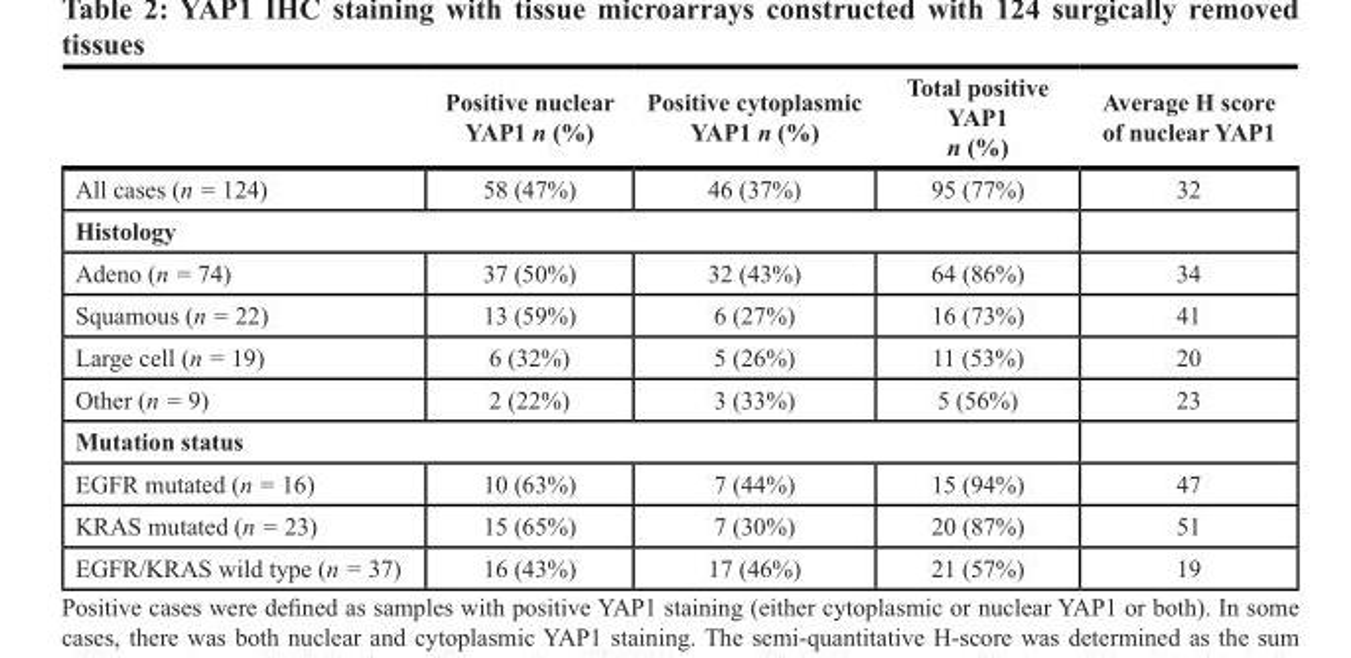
<table><thead><tr><td></td><td>Positive nuclear YAP1 n (%)</td><td>Positive cytoplasmic YAP1 n (%)</td><td>Total positive YAP1 n (%)</td><td>Average H score of nuclear YAP1</td></tr></thead><tbody><tr><td>All cases (n = 124)</td><td>58 (47%)</td><td>46 (37%)</td><td>95 (77%)</td><td>32</td></tr><tr><td colspan="5">Histology</td></tr><tr><td>Adeno (n = 74)</td><td>37 (50%)</td><td>32 (43%)</td><td>64 (86%)</td><td>34</td></tr><tr><td>Squamous (n = 22)</td><td>13 (59%)</td><td>6 (27%)</td><td>16 (73%)</td><td>41</td></tr><tr><td>Large cell (n = 19)</td><td>6 (32%)</td><td>5 (26%)</td><td>11 (53%)</td><td>20</td></tr><tr><td>Other (n = 9)</td><td>2 (22%)</td><td>3 (33%)</td><td>5 (56%)</td><td>23</td></tr><tr><td colspan="5">Mutation status</td></tr><tr><td>EGFR mutated (n = 16)</td><td>10 (63%)</td><td>7 (44%)</td><td>15 (94%)</td><td>47</td></tr><tr><td>KRAS mutated (n = 23)</td><td>15 (65%)</td><td>7 (30%)</td><td>20 (87%)</td><td>51</td></tr><tr><td>EGFR/KRAS wild type (n = 37)</td><td>16 (43%)</td><td>17 (46%)</td><td>21 (57%)</td><td>19</td></tr></tbody></table>